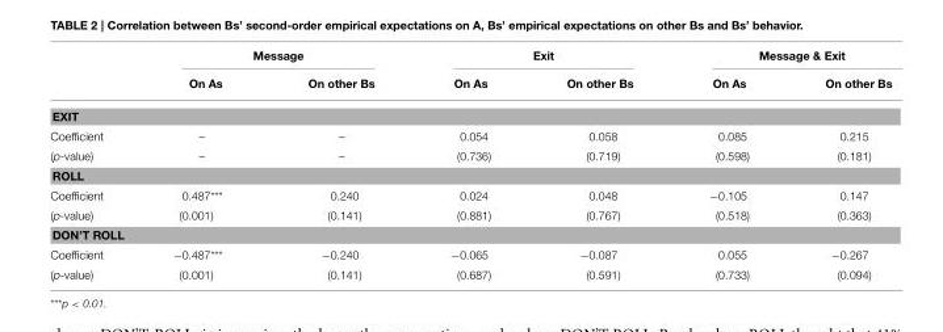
<table><thead><tr><td rowspan="2"></td><td colspan="2">Message</td><td colspan="2">Exit</td><td colspan="2">Message &amp; Exit</td></tr><tr><td>On As</td><td>On other Bs</td><td>On As</td><td>On other Bs</td><td>On As</td><td>On other Bs</td></tr></thead><tbody><tr><td colspan="7">EXIT</td></tr><tr><td>Coefficient</td><td>–</td><td>–</td><td>0.054</td><td>0.058</td><td>0.085</td><td>0.215</td></tr><tr><td>(p-value)</td><td>–</td><td>–</td><td>(0.736)</td><td>(0.719)</td><td>(0.598)</td><td>(0.181)</td></tr><tr><td colspan="7">ROLL</td></tr><tr><td>Coefficient</td><td>0.487***</td><td>0.240</td><td>0.024</td><td>0.048</td><td>−0.105</td><td>0.147</td></tr><tr><td>(p-value)</td><td>(0.001)</td><td>(0.141)</td><td>(0.881)</td><td>(0.767)</td><td>(0.518)</td><td>(0.363)</td></tr><tr><td colspan="7">DON’T ROLL</td></tr><tr><td>Coefficient</td><td>−0.487***</td><td>−0.240</td><td>−0.065</td><td>−0.087</td><td>0.055</td><td>−0.267</td></tr><tr><td>(p-value)</td><td>(0.001)</td><td>(0.141)</td><td>(0.687)</td><td>(0.591)</td><td>(0.733)</td><td>(0.094)</td></tr></tbody></table>